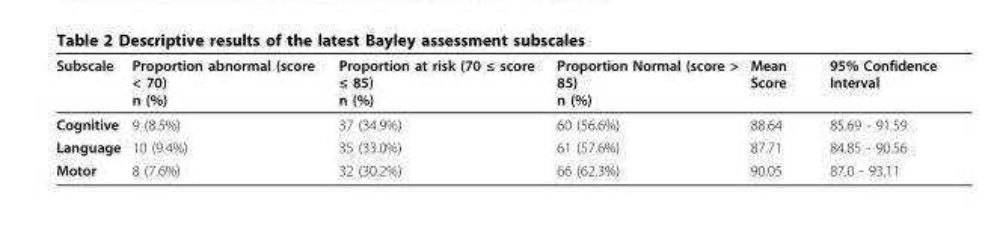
<table><thead><tr><td>Subscale</td><td>Proportion abnormal (score &lt; 70) n (%)</td><td>Proportion at risk (70 ≤ score ≤ 85) n (%)</td><td>Proportion Normal (score &gt; 85) n (%)</td><td>Mean Score</td><td>95% Confidence Interval</td></tr></thead><tbody><tr><td>Cognitive</td><td>9 (8.5%)</td><td>37 (34.9%)</td><td>60 (56.6%)</td><td>88.64</td><td>85.69 - 91.59</td></tr><tr><td>Language</td><td>10 (9.4%)</td><td>35 (33.0%)</td><td>61 (57.6%)</td><td>87.71</td><td>84.85 - 90.56</td></tr><tr><td>Motor</td><td>8 (7.6%)</td><td>32 (30.2%)</td><td>66 (62.3%)</td><td>90.05</td><td>87.0 - 93.11</td></tr></tbody></table>